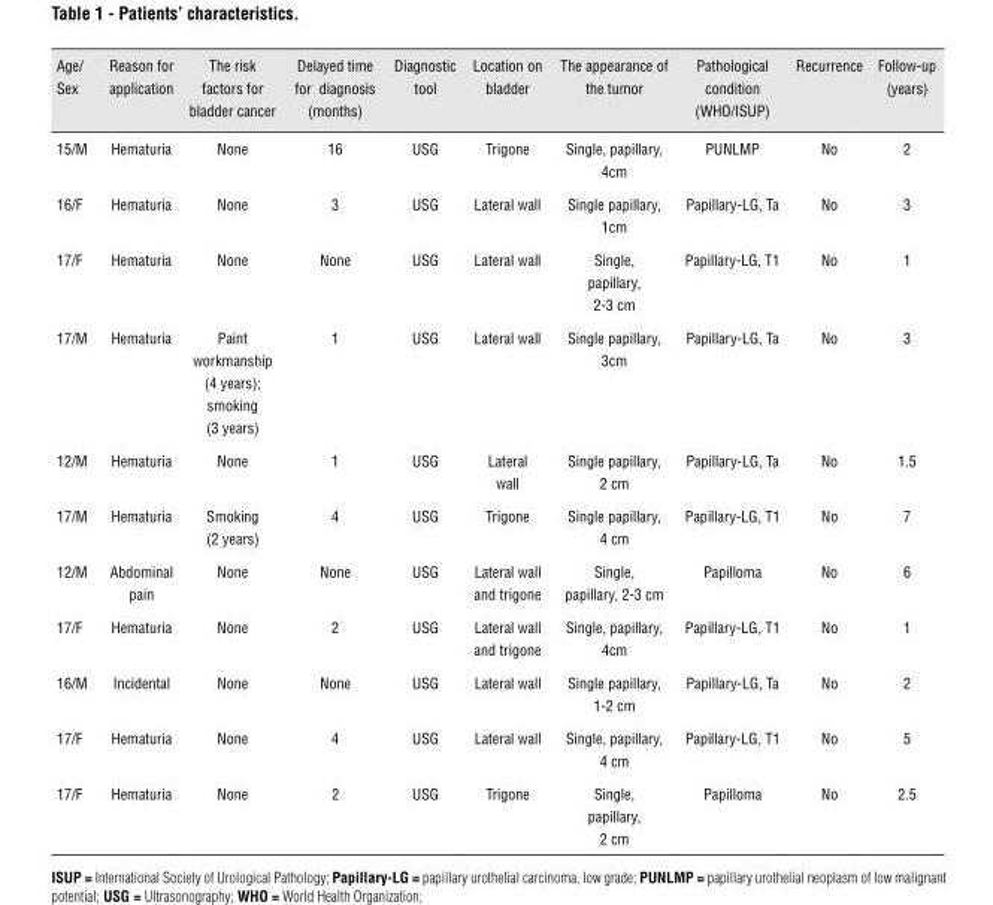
<table><thead><tr><td>Age/ Sex</td><td>Reason for application</td><td>The risk factors for bladder cancer</td><td>Delayed time for diagnosis (months)</td><td>Diagnostic tool</td><td>Location on bladder</td><td>The appearance of the tumor</td><td>Pathological condition (WHO/ISUP)</td><td>Recurrence</td><td>Follow-up (years)</td></tr></thead><tbody><tr><td>15/M</td><td>Hematuria</td><td>None</td><td>16</td><td>USG</td><td>Trigone</td><td>Single, papillary, 4cm</td><td>PUNLMP</td><td>No</td><td>2</td></tr><tr><td>16/F</td><td>Hematuria</td><td>None</td><td>3</td><td>USG</td><td>Lateral wall</td><td>Single papillary, 1cm</td><td>Papillary-LG, Ta</td><td>No</td><td>3</td></tr><tr><td>17/F</td><td>Hematuria</td><td>None</td><td>None</td><td>USG</td><td>Lateral wall</td><td>Single, papillary, 2-3 cm</td><td>Papillary-LG, T1</td><td>No</td><td>1</td></tr><tr><td>17/M</td><td>Hematuria</td><td>Paint workmanship (4 years); smoking (3 years)</td><td>1</td><td>USG</td><td>Lateral wall</td><td>Single papillary, 3cm</td><td>Papillary-LG, Ta</td><td>No</td><td>3</td></tr><tr><td>12/M</td><td>Hematuria</td><td>None</td><td>1</td><td>USG</td><td>Lateral wall</td><td>Single papillary, 2 cm</td><td>Papillary-LG, Ta</td><td>No</td><td>1.5</td></tr><tr><td>17/M</td><td>Hematuria</td><td>Smoking (2 years)</td><td>4</td><td>USG</td><td>Trigone</td><td>Single papillary, 4 cm</td><td>Papillary-LG, T1</td><td>No</td><td>7</td></tr><tr><td>12/M</td><td>Abdominal pain</td><td>None</td><td>None</td><td>USG</td><td>Lateral wall and trigone</td><td>Single, papillary, 2-3 cm</td><td>Papilloma</td><td>No</td><td>6</td></tr><tr><td>17/F</td><td>Hematuria</td><td>None</td><td>2</td><td>USG</td><td>Lateral wall and trigone</td><td>Single, papillary, 4cm</td><td>Papillary-LG, T1</td><td>No</td><td>1</td></tr><tr><td>16/M</td><td>Incidental</td><td>None</td><td>None</td><td>USG</td><td>Lateral wall</td><td>Single papillary, 1-2 cm</td><td>Papillary-LG, Ta</td><td>No</td><td>2</td></tr><tr><td>17/F</td><td>Hematuria</td><td>None</td><td>4</td><td>USG</td><td>Lateral wall</td><td>Single, papillary, 4 cm</td><td>Papillary-LG, T1</td><td>No</td><td>5</td></tr><tr><td>17/F</td><td>Hematuria</td><td>None</td><td>2</td><td>USG</td><td>Trigone</td><td>Single, papillary, 2 cm</td><td>Papilloma</td><td>No</td><td>2.5</td></tr></tbody></table>